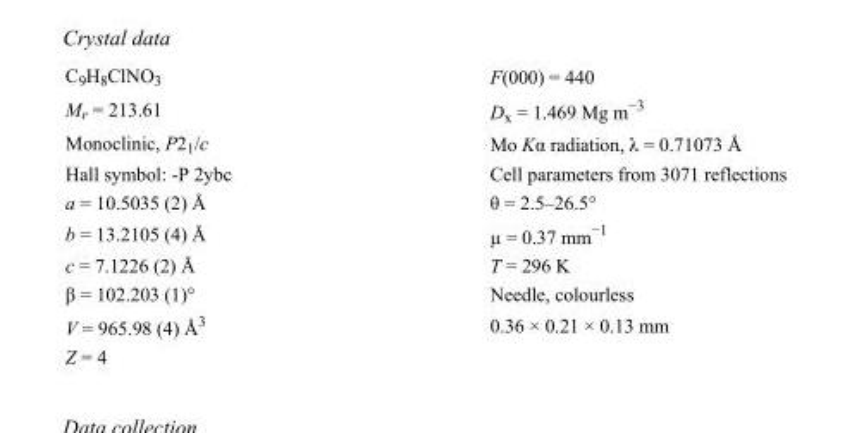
<table><tbody><tr><td>C<sub>9</sub>H<sub>8</sub>ClNO<sub>3</sub></td><td>F(000) = 440</td></tr><tr><td>M<sub>r</sub> = 213.61</td><td>D<sub>x</sub> = 1.469 Mg m<sup>−3</sup></td></tr><tr><td>Monoclinic, P2<sub>1</sub>/c</td><td>Mo Kα radiation, λ = 0.71073 Å</td></tr><tr><td>Hall symbol: -P 2ybc</td><td>Cell parameters from 3071 reflections</td></tr><tr><td>a = 10.5035 (2) Å</td><td>θ = 2.5–26.5°</td></tr><tr><td>b = 13.2105 (4) Å</td><td>µ = 0.37 mm<sup>−1</sup></td></tr><tr><td>c = 7.1226 (2) Å</td><td>T = 296 K</td></tr><tr><td>β = 102.203 (1)°</td><td>Needle, colourless</td></tr><tr><td>V = 965.98 (4) Å<sup>3</sup></td><td>0.36 × 0.21 × 0.13 mm</td></tr><tr><td>Z = 4</td><td></td></tr></tbody></table>